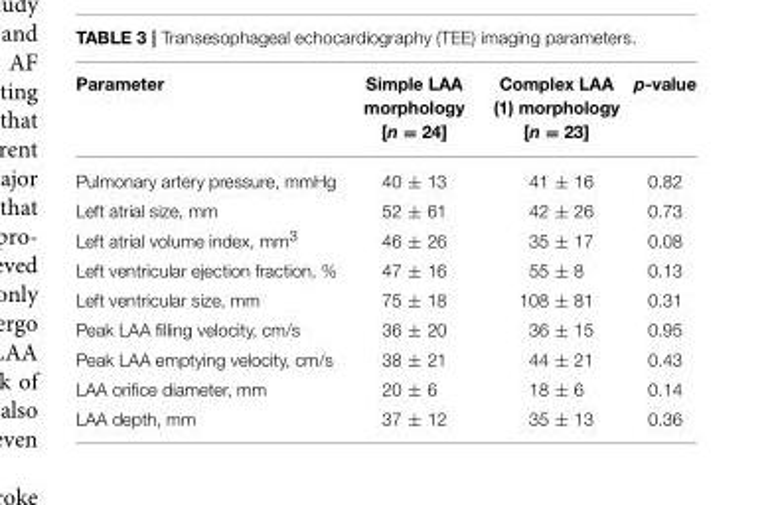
<table><thead><tr><td>Parameter</td><td>Simple LAA morphology [n = 24]</td><td>Complex LAA (1) morphology [n = 23]</td><td>p-value</td></tr></thead><tbody><tr><td>Pulmonary artery pressure, mmHg</td><td>40 ± 13</td><td>41 ± 16</td><td>0.82</td></tr><tr><td>Left atrial size, mm</td><td>52 ± 61</td><td>42 ± 26</td><td>0.73</td></tr><tr><td>Left atrial volume index, mm<sup>3</sup></td><td>46 ± 26</td><td>35 ± 17</td><td>0.08</td></tr><tr><td>Left ventricular ejection fraction, %</td><td>47 ± 16</td><td>55 ± 8</td><td>0.13</td></tr><tr><td>Left ventricular size, mm</td><td>75 ± 18</td><td>108 ± 81</td><td>0.31</td></tr><tr><td>Peak LAA filling velocity, cm/s</td><td>36 ± 20</td><td>36 ± 15</td><td>0.95</td></tr><tr><td>Peak LAA emptying velocity, cm/s</td><td>38 ± 21</td><td>44 ± 21</td><td>0.43</td></tr><tr><td>LAA orifice diameter, mm</td><td>20 ± 6</td><td>18 ± 6</td><td>0.14</td></tr><tr><td>LAA depth, mm</td><td>37 ± 12</td><td>35 ± 13</td><td>0.36</td></tr></tbody></table>